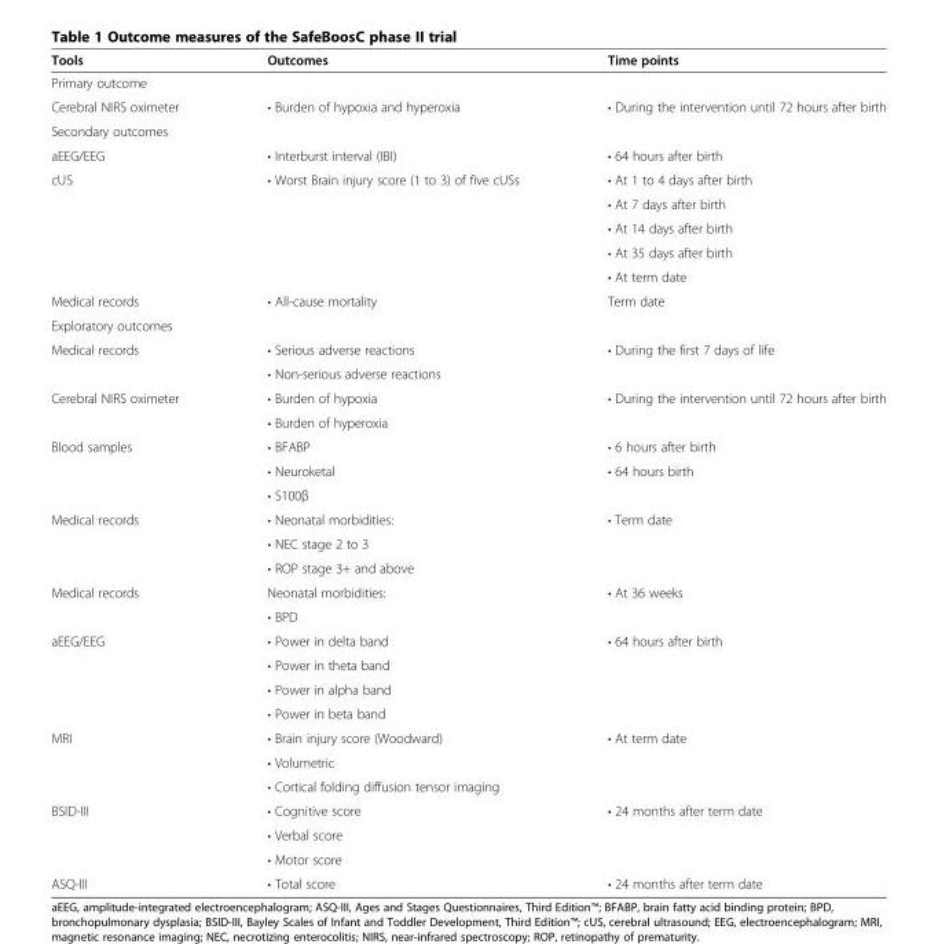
<table><thead><tr><td>Tools</td><td>Outcomes</td><td>Time points</td></tr></thead><tbody><tr><td colspan="3">Primary outcome</td></tr><tr><td>Cerebral NIRS oximeter</td><td>• Burden of hypoxia and hyperoxia</td><td>• During the intervention until 72 hours after birth</td></tr><tr><td colspan="3">Secondary outcomes</td></tr><tr><td>aEEG/EEG</td><td>• Interburst interval (IBI)</td><td>• 64 hours after birth</td></tr><tr><td rowspan="5">cUS</td><td rowspan="5">• Worst Brain injury score (1 to 3) of five cUSs</td><td>• At 1 to 4 days after birth</td></tr><tr><td>• At 7 days after birth</td></tr><tr><td>• At 14 days after birth</td></tr><tr><td>• At 35 days after birth</td></tr><tr><td>• At term date</td></tr><tr><td>Medical records</td><td>• All-cause mortality</td><td>Term date</td></tr><tr><td colspan="3">Exploratory outcomes</td></tr><tr><td rowspan="2">Medical records</td><td>• Serious adverse reactions</td><td rowspan="2">• During the first 7 days of life</td></tr><tr><td>• Non-serious adverse reactions</td></tr><tr><td rowspan="2">Cerebral NIRS oximeter</td><td>• Burden of hypoxia</td><td rowspan="2">• During the intervention until 72 hours after birth</td></tr><tr><td>• Burden of hyperoxia</td></tr><tr><td rowspan="3">Blood samples</td><td>• BFABP</td><td>• 6 hours after birth</td></tr><tr><td>• Neuroketal</td><td rowspan="2">• 64 hours birth</td></tr><tr><td>• S100β</td></tr><tr><td rowspan="3">Medical records</td><td>• Neonatal morbidities:</td><td rowspan="3">• Term date</td></tr><tr><td>• NEC stage 2 to 3</td></tr><tr><td>• ROP stage 3+ and above</td></tr><tr><td rowspan="2">Medical records</td><td>Neonatal morbidities:</td><td rowspan="2">• At 36 weeks</td></tr><tr><td>• BPD</td></tr><tr><td rowspan="4">aEEG/EEG</td><td>• Power in delta band</td><td rowspan="4">• 64 hours after birth</td></tr><tr><td>• Power in theta band</td></tr><tr><td>• Power in alpha band</td></tr><tr><td>• Power in beta band</td></tr><tr><td rowspan="3">MRI</td><td>• Brain injury score (Woodward)</td><td rowspan="3">• At term date</td></tr><tr><td>• Volumetric</td></tr><tr><td>• Cortical folding diffusion tensor imaging</td></tr><tr><td rowspan="3">BSID-III</td><td>• Cognitive score</td><td rowspan="3">• 24 months after term date</td></tr><tr><td>• Verbal score</td></tr><tr><td>• Motor score</td></tr><tr><td>ASQ-III</td><td>• Total score</td><td>• 24 months after term date</td></tr></tbody></table>